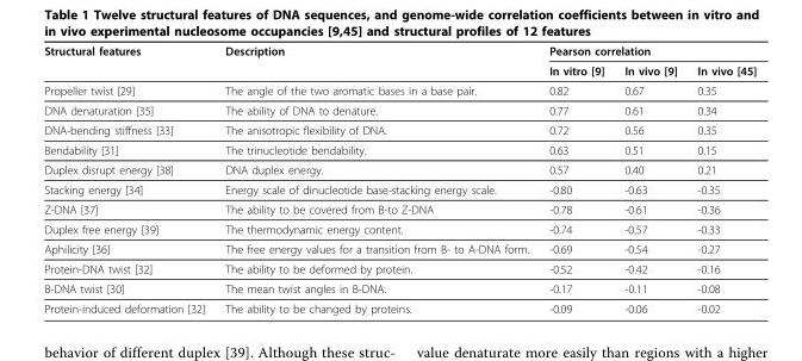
<table><thead><tr><td rowspan="2">Structural features</td><td rowspan="2">Description</td><td colspan="3">Pearson correlation</td></tr><tr><td>In vitro [9]</td><td>In vivo [9]</td><td>In vivo [45]</td></tr></thead><tbody><tr><td>Propeller twist [29]</td><td>The angle of the two aromatic bases in a base pair.</td><td>0.82</td><td>0.67</td><td>0.35</td></tr><tr><td>DNA denaturation [35]</td><td>The ability of DNA to denature.</td><td>0.77</td><td>0.61</td><td>0.34</td></tr><tr><td>DNA-bending stiffness [33]</td><td>The anisotropic flexibility of DNA.</td><td>0.72</td><td>0.56</td><td>0.35</td></tr><tr><td>Bendability [31]</td><td>The trinucleotide bendability.</td><td>0.63</td><td>0.51</td><td>0.15</td></tr><tr><td>Duplex disrupt energy [38]</td><td>DNA duplex energy.</td><td>0.57</td><td>0.40</td><td>0.21</td></tr><tr><td>Stacking energy [34]</td><td>Energy scale of dinucleotide base-stacking energy scale.</td><td>-0.80</td><td>-0.63</td><td>-0.35</td></tr><tr><td>Z-DNA [37]</td><td>The ability to be covered from B-to Z-DNA</td><td>-0.78</td><td>-0.61</td><td>-0.36</td></tr><tr><td>Duplex free energy [39]</td><td>The thermodynamic energy content.</td><td>-0.74</td><td>-0.57</td><td>-0.33</td></tr><tr><td>Aphilicity [36]</td><td>The free energy values for a transition from B- to A-DNA form.</td><td>-0.69</td><td>-0.54</td><td>-0.27</td></tr><tr><td>Protein-DNA twist [32]</td><td>The ability to be deformed by protein.</td><td>-0.52</td><td>-0.42</td><td>-0.16</td></tr><tr><td>B-DNA twist [30]</td><td>The mean twist angles in B-DNA.</td><td>-0.17</td><td>-0.11</td><td>-0.08</td></tr><tr><td>Protein-induced deformation [32]</td><td>The ability to be changed by proteins.</td><td>-0.09</td><td>-0.06</td><td>-0.02</td></tr></tbody></table>